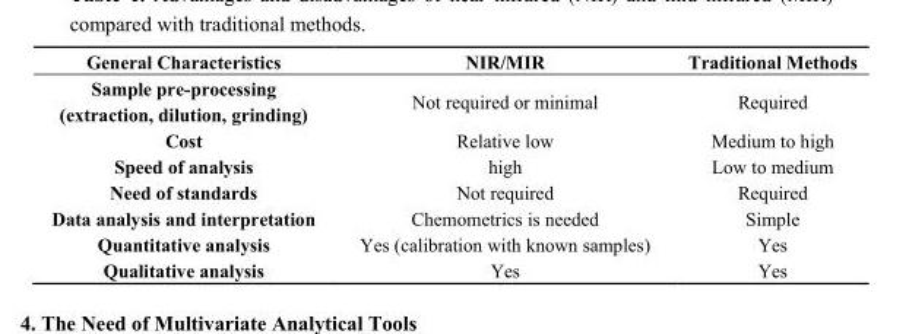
<table><thead><tr><td>General Characteristics</td><td>NIR/MIR</td><td>Traditional Methods</td></tr></thead><tbody><tr><td>Sample pre-processing (extraction, dilution, grinding)</td><td>Not required or minimal</td><td>Required</td></tr><tr><td>Cost</td><td>Relative low</td><td>Medium to high</td></tr><tr><td>Speed of analysis</td><td>high</td><td>Low to medium</td></tr><tr><td>Need of standards</td><td>Not required</td><td>Required</td></tr><tr><td>Data analysis and interpretation</td><td>Chemometrics is needed</td><td>Simple</td></tr><tr><td>Quantitative analysis</td><td>Yes (calibration with known samples)</td><td>Yes</td></tr><tr><td>Qualitative analysis</td><td>Yes</td><td>Yes</td></tr></tbody></table>